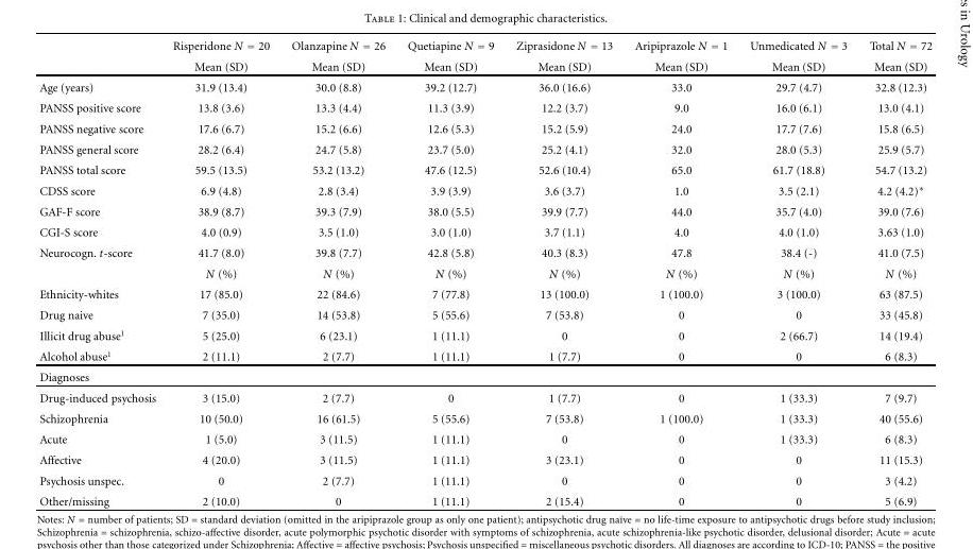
<table><thead><tr><td rowspan="2"></td><td rowspan="2">Risperidone N = 20 Mean (SD)</td><td rowspan="2">Olanzapine N = 26 Mean (SD)</td><td rowspan="2">Quetiapine N = 9 Mean (SD)</td><td rowspan="2">Ziprasidone N = 13 Mean (SD)</td><td rowspan="2">Aripiprazole N = 1 Mean (SD)</td><td rowspan="2">Unmedicated N = 3 Mean (SD)</td><td rowspan="2">Total N = 72 Mean (SD)</td></tr><tr></tr></thead><tbody><tr><td>Age (years)</td><td>31.9 (13.4)</td><td>30.0 (8.8)</td><td>39.2 (12.7)</td><td>36.0 (16.6)</td><td>33.0</td><td>29.7 (4.7)</td><td>32.8 (12.3)</td></tr><tr><td>PANSS positive score</td><td>13.8 (3.6)</td><td>13.3 (4.4)</td><td>11.3 (3.9)</td><td>12.2 (3.7)</td><td>9.0</td><td>16.0 (6.1)</td><td>13.0 (4.1)</td></tr><tr><td>PANSS negative score</td><td>17.6 (6.7)</td><td>15.2 (6.6)</td><td>12.6 (5.3)</td><td>15.2 (5.9)</td><td>24.0</td><td>17.7 (7.6)</td><td>15.8 (6.5)</td></tr><tr><td>PANSS general score</td><td>28.2 (6.4)</td><td>24.7 (5.8)</td><td>23.7 (5.0)</td><td>25.2 (4.1)</td><td>32.0</td><td>28.0 (5.3)</td><td>25.9 (5.7)</td></tr><tr><td>PANSS total score</td><td>59.5 (13.5)</td><td>53.2 (13.2)</td><td>47.6 (12.5)</td><td>52.6 (10.4)</td><td>65.0</td><td>61.7 (18.8)</td><td>54.7 (13.2)</td></tr><tr><td>CDSS score</td><td>6.9 (4.8)</td><td>2.8 (3.4)</td><td>3.9 (3.9)</td><td>3.6 (3.7)</td><td>1.0</td><td>3.5 (2.1)</td><td>4.2 (4.2)∗</td></tr><tr><td>GAF-F score</td><td>38.9 (8.7)</td><td>39.3 (7.9)</td><td>38.0 (5.5)</td><td>39.9 (7.7)</td><td>44.0</td><td>35.7 (4.0)</td><td>39.0 (7.6)</td></tr><tr><td>CGI-S score</td><td>4.0 (0.9)</td><td>3.5 (1.0)</td><td>3.0 (1.0)</td><td>3.7 (1.1)</td><td>4.0</td><td>4.0 (1.0)</td><td>3.63 (1.0)</td></tr><tr><td rowspan="2">Neurocogn. t-score</td><td>41.7 (8.0)</td><td>39.8 (7.7)</td><td>42.8 (5.8)</td><td>40.3 (8.3)</td><td>47.8</td><td>38.4 (-)</td><td>41.0 (7.5)</td></tr><tr><td>N (%)</td><td>N (%)</td><td>N (%)</td><td>N (%)</td><td>N (%)</td><td>N (%)</td><td>N (%)</td></tr><tr><td>Ethnicity-whites</td><td>17 (85.0)</td><td>22 (84.6)</td><td>7 (77.8)</td><td>13 (100.0)</td><td>1 (100.0)</td><td>3 (100.0)</td><td>63 (87.5)</td></tr><tr><td>Drug naive</td><td>7 (35.0)</td><td>14 (53.8)</td><td>5 (55.6)</td><td>7 (53.8)</td><td>0</td><td>0</td><td>33 (45.8)</td></tr><tr><td>Illicit drug abuse<sup>1</sup></td><td>5 (25.0)</td><td>6 (23.1)</td><td>1 (11.1)</td><td>0</td><td>0</td><td>2 (66.7)</td><td>14 (19.4)</td></tr><tr><td>Alcohol abuse<sup>1</sup></td><td>2 (11.1)</td><td>2 (7.7)</td><td>1 (11.1)</td><td>1 (7.7)</td><td>0</td><td>0</td><td>6 (8.3)</td></tr><tr><td colspan="8">Diagnoses</td></tr><tr><td>Drug-induced psychosis</td><td>3 (15.0)</td><td>2 (7.7)</td><td>0</td><td>1 (7.7)</td><td>0</td><td>1 (33.3)</td><td>7 (9.7)</td></tr><tr><td>Schizophrenia</td><td>10 (50.0)</td><td>16 (61.5)</td><td>5 (55.6)</td><td>7 (53.8)</td><td>1 (100.0)</td><td>1 (33.3)</td><td>40 (55.6)</td></tr><tr><td>Acute</td><td>1 (5.0)</td><td>3 (11.5)</td><td>1 (11.1)</td><td>0</td><td>0</td><td>1 (33.3)</td><td>6 (8.3)</td></tr><tr><td>Affective</td><td>4 (20.0)</td><td>3 (11.5)</td><td>1 (11.1)</td><td>3 (23.1)</td><td>0</td><td>0</td><td>11 (15.3)</td></tr><tr><td>Psychosis unspec.</td><td>0</td><td>2 (7.7)</td><td>1 (11.1)</td><td>0</td><td>0</td><td>0</td><td>3 (4.2)</td></tr><tr><td>Other/missing</td><td>2 (10.0)</td><td>0</td><td>1 (11.1)</td><td>2 (15.4)</td><td>0</td><td>0</td><td>5 (6.9)</td></tr></tbody></table>